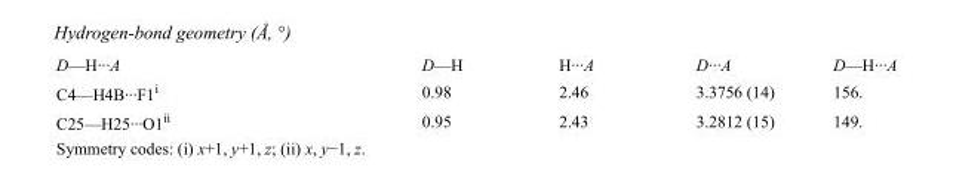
<table><tbody><tr><td>D—H···A</td><td>D—H</td><td>H···A</td><td>D···A</td><td>D—H···A</td></tr><tr><td>C4—H4B···F1<sup>i</sup></td><td>0.98</td><td>2.46</td><td>3.3756 (14)</td><td>156.</td></tr><tr><td>C25—H25···O1<sup>ii</sup></td><td>0.95</td><td>2.43</td><td>3.2812 (15)</td><td>149.</td></tr></tbody></table>